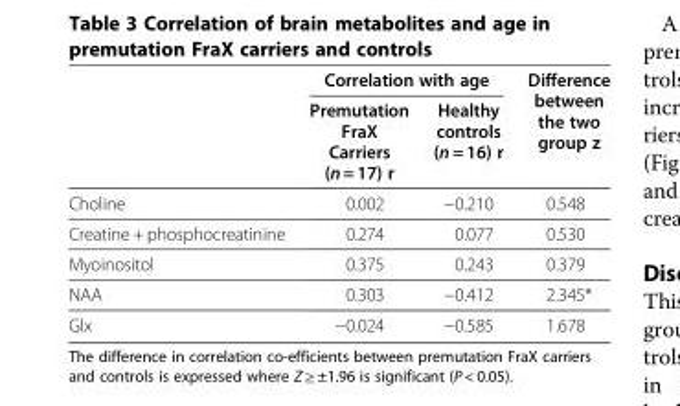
<table><thead><tr><td rowspan="2"></td><td colspan="2">Correlation with age</td><td rowspan="2">Difference between the two group z</td></tr><tr><td>Premutation FraX Carriers (n = 17) r</td><td>Healthy controls (n = 16) r</td></tr></thead><tbody><tr><td>Choline</td><td>0.002</td><td>−0.210</td><td>0.548</td></tr><tr><td>Creatine + phosphocreatinine</td><td>0.274</td><td>0.077</td><td>0.530</td></tr><tr><td>Myoinositol</td><td>0.375</td><td>0.243</td><td>0.379</td></tr><tr><td>NAA</td><td>0.303</td><td>−0.412</td><td>2.345*</td></tr><tr><td>Glx</td><td>−0.024</td><td>−0.585</td><td>1.678</td></tr></tbody></table>